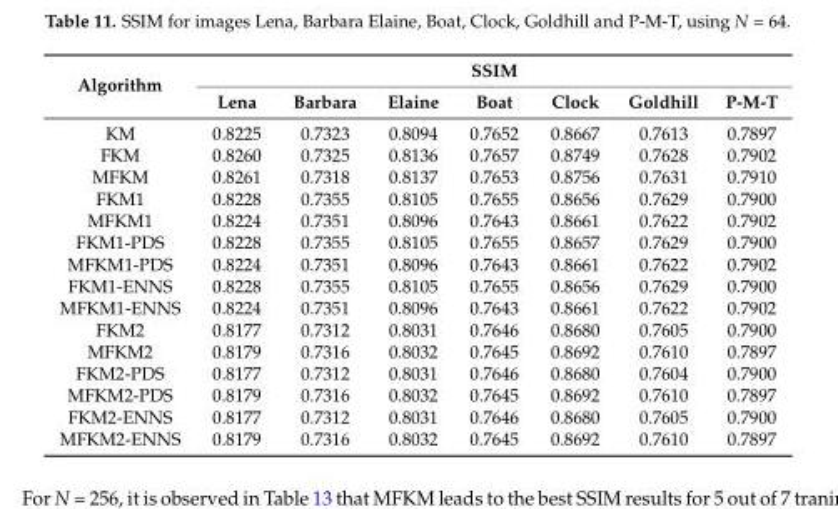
<table><thead><tr><td rowspan="2">Algorithm</td><td colspan="7">SSIM</td></tr><tr><td>Lena</td><td>Barbara</td><td>Elaine</td><td>Boat</td><td>Clock</td><td>Goldhill</td><td>P-M-T</td></tr></thead><tbody><tr><td>KM</td><td>0.8225</td><td>0.7323</td><td>0.8094</td><td>0.7652</td><td>0.8667</td><td>0.7613</td><td>0.7897</td></tr><tr><td>FKM</td><td>0.8260</td><td>0.7325</td><td>0.8136</td><td>0.7657</td><td>0.8749</td><td>0.7628</td><td>0.7902</td></tr><tr><td>MFKM</td><td>0.8261</td><td>0.7318</td><td>0.8137</td><td>0.7653</td><td>0.8756</td><td>0.7631</td><td>0.7910</td></tr><tr><td>FKM1</td><td>0.8228</td><td>0.7355</td><td>0.8105</td><td>0.7655</td><td>0.8656</td><td>0.7629</td><td>0.7900</td></tr><tr><td>MFKM1</td><td>0.8224</td><td>0.7351</td><td>0.8096</td><td>0.7643</td><td>0.8661</td><td>0.7622</td><td>0.7902</td></tr><tr><td>FKM1-PDS</td><td>0.8228</td><td>0.7355</td><td>0.8105</td><td>0.7655</td><td>0.8657</td><td>0.7629</td><td>0.7900</td></tr><tr><td>MFKM1-PDS</td><td>0.8224</td><td>0.7351</td><td>0.8096</td><td>0.7643</td><td>0.8661</td><td>0.7622</td><td>0.7902</td></tr><tr><td>FKM1-ENNS</td><td>0.8228</td><td>0.7355</td><td>0.8105</td><td>0.7655</td><td>0.8656</td><td>0.7629</td><td>0.7900</td></tr><tr><td>MFKM1-ENNS</td><td>0.8224</td><td>0.7351</td><td>0.8096</td><td>0.7643</td><td>0.8661</td><td>0.7622</td><td>0.7902</td></tr><tr><td>FKM2</td><td>0.8177</td><td>0.7312</td><td>0.8031</td><td>0.7646</td><td>0.8680</td><td>0.7605</td><td>0.7900</td></tr><tr><td>MFKM2</td><td>0.8179</td><td>0.7316</td><td>0.8032</td><td>0.7645</td><td>0.8692</td><td>0.7610</td><td>0.7897</td></tr><tr><td>FKM2-PDS</td><td>0.8177</td><td>0.7312</td><td>0.8031</td><td>0.7646</td><td>0.8680</td><td>0.7604</td><td>0.7900</td></tr><tr><td>MFKM2-PDS</td><td>0.8179</td><td>0.7316</td><td>0.8032</td><td>0.7645</td><td>0.8692</td><td>0.7610</td><td>0.7897</td></tr><tr><td>FKM2-ENNS</td><td>0.8177</td><td>0.7312</td><td>0.8031</td><td>0.7646</td><td>0.8680</td><td>0.7605</td><td>0.7900</td></tr><tr><td>MFKM2-ENNS</td><td>0.8179</td><td>0.7316</td><td>0.8032</td><td>0.7645</td><td>0.8692</td><td>0.7610</td><td>0.7897</td></tr></tbody></table>